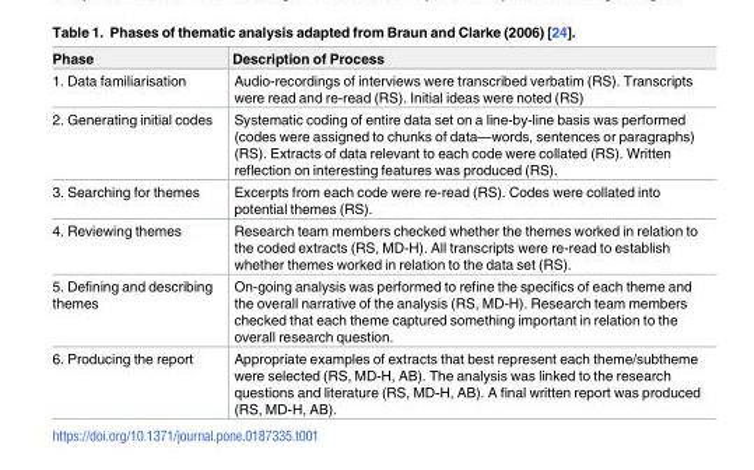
<table><thead><tr><td>Phase</td><td>Description of Process</td></tr></thead><tbody><tr><td>1. Data familiarisation</td><td>Audio-recordings of interviews were transcribed verbatim (RS). Transcripts were read and re-read (RS). Initial ideas were noted (RS)</td></tr><tr><td>2. Generating initial codes</td><td>Systematic coding of entire data set on a line-by-line basis was performed (codes were assigned to chunks of data—words, sentences or paragraphs) (RS). Extracts of data relevant to each code were collated (RS). Written reflection on interesting features was produced (RS).</td></tr><tr><td>3. Searching for themes</td><td>Excerpts from each code were re-read (RS). Codes were collated into potential themes (RS).</td></tr><tr><td>4. Reviewing themes</td><td>Research team members checked whether the themes worked in relation to the coded extracts (RS, MD-H). All transcripts were re-read to establish whether themes worked in relation to the data set (RS).</td></tr><tr><td>5. Defining and describing themes</td><td>On-going analysis was performed to refine the specifics of each theme and the overall narrative of the analysis (RS, MD-H). Research team members checked that each theme captured something important in relation to the overall research question.</td></tr><tr><td>6. Producing the report</td><td>Appropriate examples of extracts that best represent each theme/subtheme were selected (RS, MD-H, AB). The analysis was linked to the research questions and literature (RS, MD-H, AB). A final written report was produced (RS, MD-H, AB).</td></tr></tbody></table>